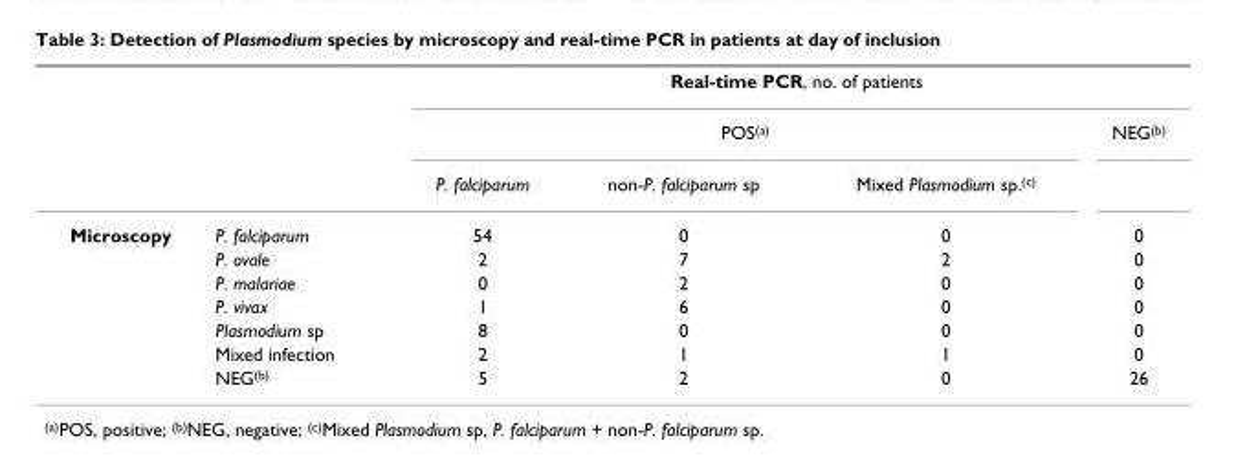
<table><thead><tr><td rowspan="3"></td><td rowspan="3"></td><td colspan="4">Real-time PCR, no. of patients</td></tr><tr><td colspan="3">POS<sup>(a)</sup></td><td rowspan="2">NEG<sup>(b)</sup></td></tr><tr><td>P. falciparum</td><td>non-P. falciparum sp</td><td>Mixed Plasmodium sp.<sup>(c)</sup></td></tr></thead><tbody><tr><td rowspan="7">Microscopy</td><td>P. falciparum</td><td>54</td><td>0</td><td>0</td><td>0</td></tr><tr><td>P. ovale</td><td>2</td><td>7</td><td>2</td><td>0</td></tr><tr><td>P. malariae</td><td>0</td><td>2</td><td>0</td><td>0</td></tr><tr><td>P. vivax</td><td>1</td><td>6</td><td>0</td><td>0</td></tr><tr><td>Plasmodium sp</td><td>8</td><td>0</td><td>0</td><td>0</td></tr><tr><td>Mixed infection</td><td>2</td><td>1</td><td>1</td><td>0</td></tr><tr><td>NEG<sup>(b)</sup></td><td>5</td><td>2</td><td>0</td><td>26</td></tr></tbody></table>